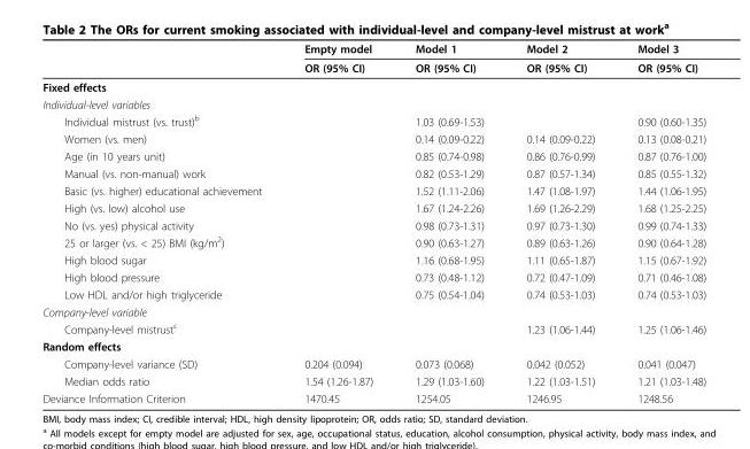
<table><thead><tr><td rowspan="2"></td><td rowspan="2">Empty model OR (95% CI)</td><td rowspan="2">Model 1 OR (95% CI)</td><td rowspan="2">Model 2 OR (95% CI)</td><td rowspan="2">Model 3 OR (95% CI)</td></tr><tr></tr></thead><tbody><tr><td colspan="5">Fixed effects</td></tr><tr><td colspan="5">Individual-level variables</td></tr><tr><td>Individual mistrust (vs. trust)<sup>b</sup></td><td></td><td>1.03 (0.69-1.53)</td><td></td><td>0.90 (0.60-1.35)</td></tr><tr><td>Women (vs. men)</td><td></td><td>0.14 (0.09-0.22)</td><td>0.14 (0.09-0.22)</td><td>0.13 (0.08-0.21)</td></tr><tr><td>Age (in 10 years unit)</td><td></td><td>0.85 (0.74-0.98)</td><td>0.86 (0.76-0.99)</td><td>0.87 (0.76-1.00)</td></tr><tr><td>Manual (vs. non-manual) work</td><td></td><td>0.82 (0.53-1.29)</td><td>0.87 (0.57-1.34)</td><td>0.85 (0.55-1.32)</td></tr><tr><td>Basic (vs. higher) educational achievement</td><td></td><td>1.52 (1.11-2.06)</td><td>1.47 (1.08-1.97)</td><td>1.44 (1.06-1.95)</td></tr><tr><td>High (vs. low) alcohol use</td><td></td><td>1.67 (1.24-2.26)</td><td>1.69 (1.26-2.29)</td><td>1.68 (1.25-2.25)</td></tr><tr><td>No (vs. yes) physical activity</td><td></td><td>0.98 (0.73-1.31)</td><td>0.97 (0.73-1.30)</td><td>0.99 (0.74-1.33)</td></tr><tr><td>25 or larger (vs. &lt; 25) BMI (kg/m<sup>2</sup>)</td><td></td><td>0.90 (0.63-1.27)</td><td>0.89 (0.63-1.26)</td><td>0.90 (0.64-1.28)</td></tr><tr><td>High blood sugar</td><td></td><td>1.16 (0.68-1.95)</td><td>1.11 (0.65-1.87)</td><td>1.15 (0.67-1.92)</td></tr><tr><td>High blood pressure</td><td></td><td>0.73 (0.48-1.12)</td><td>0.72 (0.47-1.09)</td><td>0.71 (0.46-1.08)</td></tr><tr><td>Low HDL and/or high triglyceride</td><td></td><td>0.75 (0.54-1.04)</td><td>0.74 (0.53-1.03)</td><td>0.74 (0.53-1.03)</td></tr><tr><td colspan="5">Company-level variable</td></tr><tr><td>Company-level mistrust<sup>c</sup></td><td></td><td></td><td>1.23 (1.06-1.44)</td><td>1.25 (1.06-1.46)</td></tr><tr><td colspan="5">Random effects</td></tr><tr><td>Company-level variance (SD)</td><td>0.204 (0.094)</td><td>0.073 (0.068)</td><td>0.042 (0.052)</td><td>0.041 (0.047)</td></tr><tr><td>Median odds ratio</td><td>1.54 (1.26-1.87)</td><td>1.29 (1.03-1.60)</td><td>1.22 (1.03-1.51)</td><td>1.21 (1.03-1.48)</td></tr><tr><td>Deviance Information Criterion</td><td>1470.45</td><td>1254.05</td><td>1246.95</td><td>1248.56</td></tr></tbody></table>